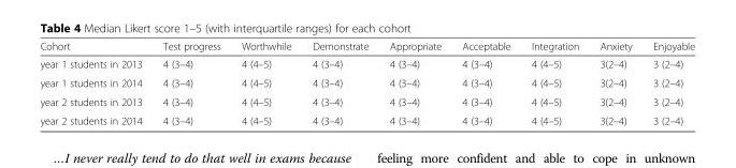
<table><thead><tr><td>Cohort</td><td>Test progress</td><td>Worthwhile</td><td>Demonstrate</td><td>Appropriate</td><td>Acceptable</td><td>Integration</td><td>Anxiety</td><td>Enjoyable</td></tr></thead><tbody><tr><td>year 1 students in 2013</td><td>4 (3–4)</td><td>4 (4–5)</td><td>4 (3–4)</td><td>4 (3–4)</td><td>4 (3–4)</td><td>4 (4–5)</td><td>3(2–4)</td><td>3 (2–4)</td></tr><tr><td>year 1 students in 2014</td><td>4 (3–4)</td><td>4 (4–5)</td><td>4 (3–4)</td><td>4 (3–4)</td><td>4 (3–4)</td><td>4 (4–5)</td><td>3(2–4)</td><td>3 (2–4)</td></tr><tr><td>year 2 students in 2013</td><td>4 (3–4)</td><td>4 (4–5)</td><td>4 (3–4)</td><td>4 (3–4)</td><td>4 (3–4)</td><td>4 (4–5)</td><td>3(2–4)</td><td>3 (2–4)</td></tr><tr><td>year 2 students in 2014</td><td>4 (3–4)</td><td>4 (4–5)</td><td>4 (3–4)</td><td>4 (3–4)</td><td>4 (3–4)</td><td>4 (4–5)</td><td>3(2–4)</td><td>3 (2–4)</td></tr></tbody></table>